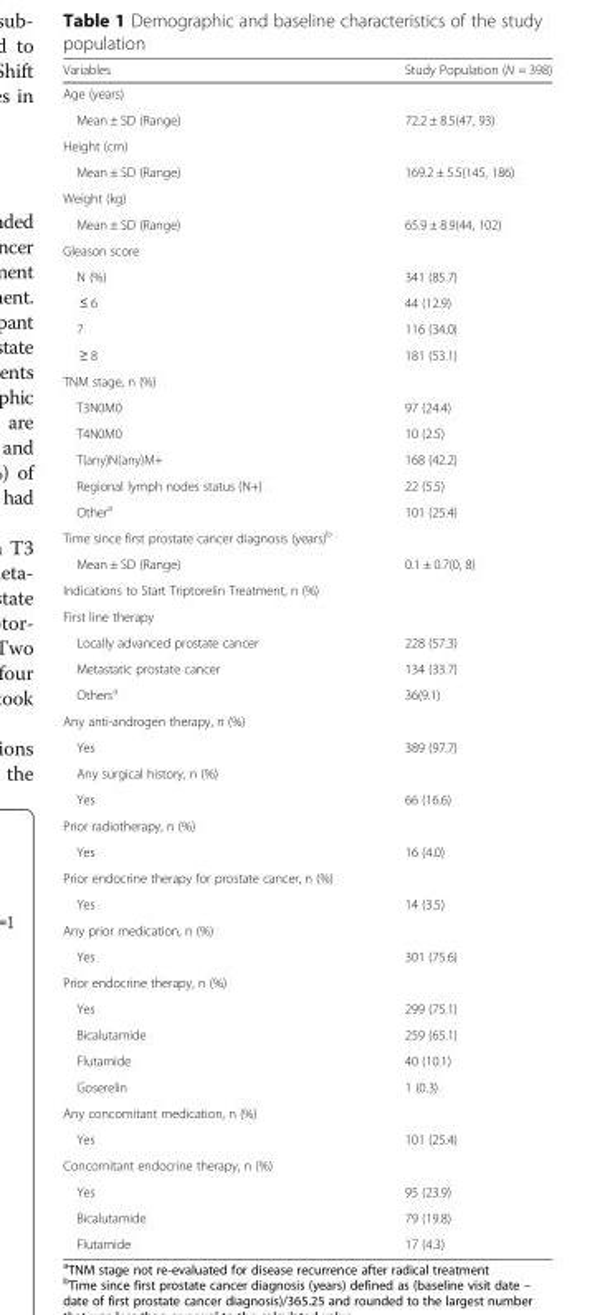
<table><thead><tr><td>Variables</td><td>Study Population (N = 398)</td></tr></thead><tbody><tr><td colspan="2">Age (years)</td></tr><tr><td>Mean ± SD (Range)</td><td>72.2 ± 8.5(47, 93)</td></tr><tr><td colspan="2">Height (cm)</td></tr><tr><td>Mean ± SD (Range)</td><td>169.2 ± 5.5(145, 186)</td></tr><tr><td colspan="2">Weight (kg)</td></tr><tr><td>Mean ± SD (Range)</td><td>65.9 ± 8.9(44, 102)</td></tr><tr><td colspan="2">Gleason score</td></tr><tr><td>N (%)</td><td>341 (85.7)</td></tr><tr><td>≤ 6</td><td>44 (12.9)</td></tr><tr><td>7</td><td>116 (34.0)</td></tr><tr><td>≥ 8</td><td>181 (53.1)</td></tr><tr><td colspan="2">TNM stage, n (%)</td></tr><tr><td>T3N0M0</td><td>97 (24.4)</td></tr><tr><td>T4N0M0</td><td>10 (2.5)</td></tr><tr><td>T(any)N(any)M+</td><td>168 (42.2)</td></tr><tr><td>Regional lymph nodes status (N+)</td><td>22 (5.5)</td></tr><tr><td>Other<sup>a</sup></td><td>101 (25.4)</td></tr><tr><td colspan="2">Time since first prostate cancer diagnosis (years)<sup>b</sup></td></tr><tr><td>Mean ± SD (Range)</td><td>0.1 ± 0.7(0, 8)</td></tr><tr><td colspan="2">Indications to Start Triptorelin Treatment, n (%)</td></tr><tr><td colspan="2">First line therapy</td></tr><tr><td>Locally advanced prostate cancer</td><td>228 (57.3)</td></tr><tr><td>Metastatic prostate cancer</td><td>134 (33.7)</td></tr><tr><td>Others<sup>a</sup></td><td>36(9.1)</td></tr><tr><td colspan="2">Any anti-androgen therapy, n (%)</td></tr><tr><td>Yes</td><td>389 (97.7)</td></tr><tr><td colspan="2">Any surgical history, n (%)</td></tr><tr><td>Yes</td><td>66 (16.6)</td></tr><tr><td colspan="2">Prior radiotherapy, n (%)</td></tr><tr><td>Yes</td><td>16 (4.0)</td></tr><tr><td colspan="2">Prior endocrine therapy for prostate cancer, n (%)</td></tr><tr><td>Yes</td><td>14 (3.5)</td></tr><tr><td colspan="2">Any prior medication, n (%)</td></tr><tr><td>Yes</td><td>301 (75.6)</td></tr><tr><td colspan="2">Prior endocrine therapy, n (%)</td></tr><tr><td>Yes</td><td>299 (75.1)</td></tr><tr><td>Bicalutamide</td><td>259 (65.1)</td></tr><tr><td>Flutamide</td><td>40 (10.1)</td></tr><tr><td>Goserelin</td><td>1 (0.3)</td></tr><tr><td colspan="2">Any concomitant medication, n (%)</td></tr><tr><td>Yes</td><td>101 (25.4)</td></tr><tr><td colspan="2">Concomitant endocrine therapy, n (%)</td></tr><tr><td>Yes</td><td>95 (23.9)</td></tr><tr><td>Bicalutamide</td><td>79 (19.8)</td></tr><tr><td>Flutamide</td><td>17 (4.3)</td></tr></tbody></table>